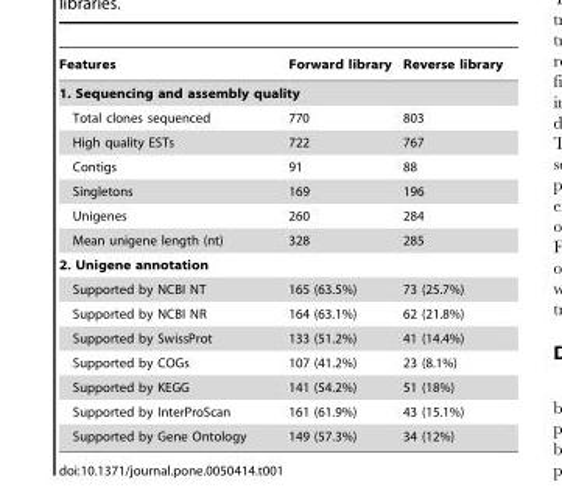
<table><thead><tr><td>Features</td><td>Forward library</td><td>Reverse library</td></tr></thead><tbody><tr><td colspan="3">1. Sequencing and assembly quality</td></tr><tr><td>Total clones sequenced</td><td>770</td><td>803</td></tr><tr><td>High quality ESTs</td><td>722</td><td>767</td></tr><tr><td>Contigs</td><td>91</td><td>88</td></tr><tr><td>Singletons</td><td>169</td><td>196</td></tr><tr><td>Unigenes</td><td>260</td><td>284</td></tr><tr><td>Mean unigene length (nt)</td><td>328</td><td>285</td></tr><tr><td colspan="3">2. Unigene annotation</td></tr><tr><td>Supported by NCBI NT</td><td>165 (63.5%)</td><td>73 (25.7%)</td></tr><tr><td>Supported by NCBI NR</td><td>164 (63.1%)</td><td>62 (21.8%)</td></tr><tr><td>Supported by SwissProt</td><td>133 (51.2%)</td><td>41 (14.4%)</td></tr><tr><td>Supported by COGs</td><td>107 (41.2%)</td><td>23 (8.1%)</td></tr><tr><td>Supported by KEGG</td><td>141 (54.2%)</td><td>51 (18%)</td></tr><tr><td>Supported by InterProScan</td><td>161 (61.9%)</td><td>43 (15.1%)</td></tr><tr><td>Supported by Gene Ontology</td><td>149 (57.3%)</td><td>34 (12%)</td></tr></tbody></table>